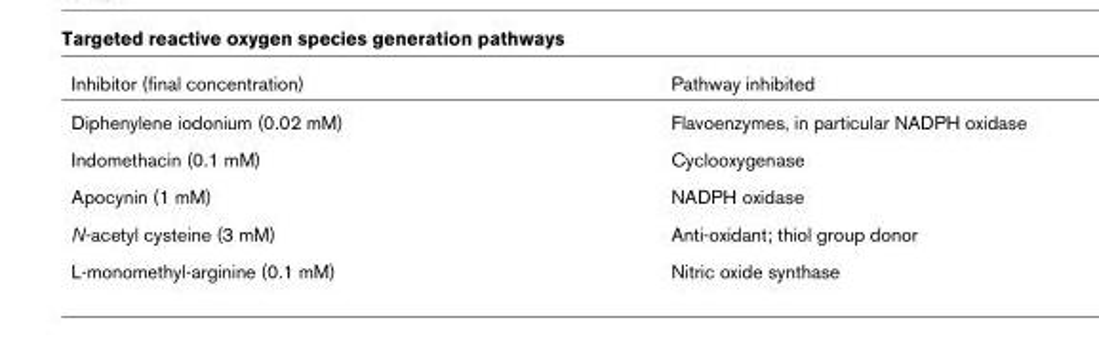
<table><thead><tr><td>Inhibitor (final concentration)</td><td>Pathway inhibited</td></tr></thead><tbody><tr><td>Diphenylene iodonium (0.02 mM)</td><td>Flavoenzymes, in particular NADPH oxidase</td></tr><tr><td>Indomethacin (0.1 mM)</td><td>Cyclooxygenase</td></tr><tr><td>Apocynin (1 mM)</td><td>NADPH oxidase</td></tr><tr><td>N-acetyl cysteine (3 mM)</td><td>Anti-oxidant; thiol group donor</td></tr><tr><td>L-monomethyl-arginine (0.1 mM)</td><td>Nitric oxide synthase</td></tr></tbody></table>